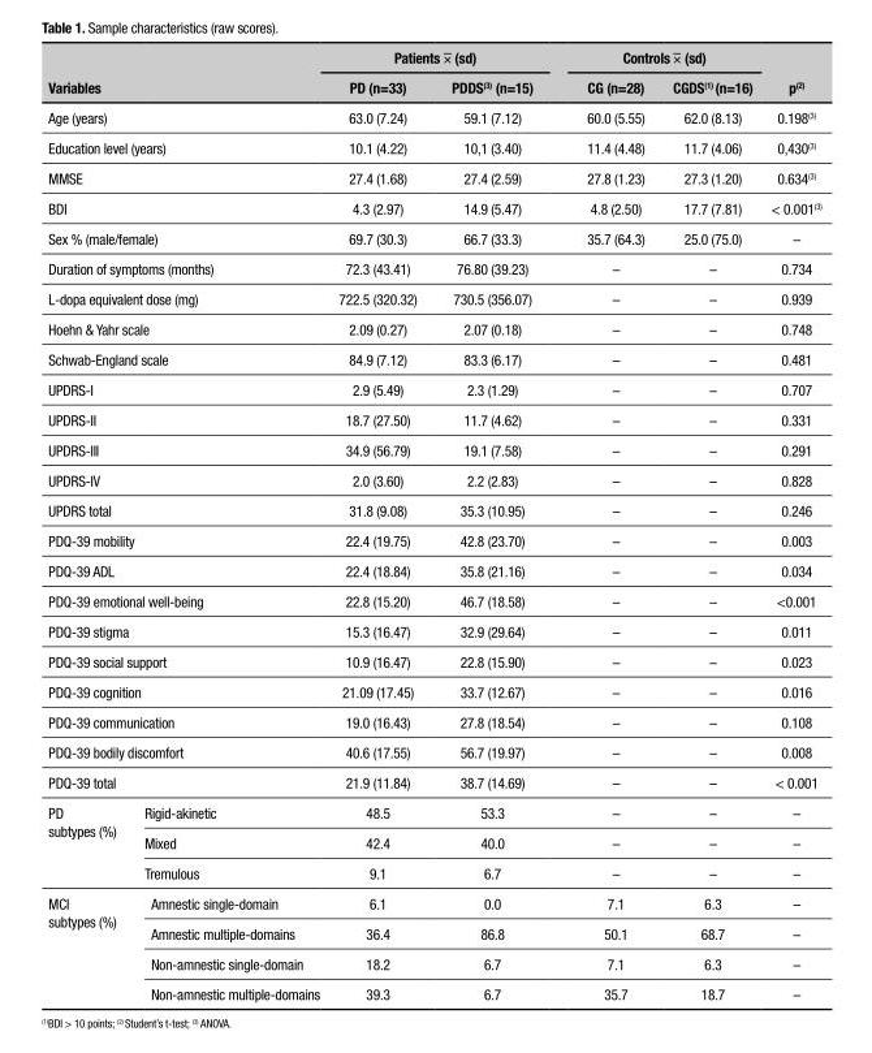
<table><thead><tr><td rowspan="2" colspan="2">Variables</td><td colspan="2">Patients × (sd)</td><td colspan="2">Controls × (sd)</td><td rowspan="2">p<sup>(2)</sup></td></tr><tr><td>PD (n=33)</td><td>PDDS<sup>(3)</sup> (n=15)</td><td>CG (n=28)</td><td>CGDS<sup>(1)</sup> (n=16)</td></tr></thead><tbody><tr><td colspan="2">Age (years)</td><td>63.0 (7.24)</td><td>59.1 (7.12)</td><td>60.0 (5.55)</td><td>62.0 (8.13)</td><td>0.198<sup>(3)</sup></td></tr><tr><td colspan="2">Education level (years)</td><td>10.1 (4.22)</td><td>10,1 (3.40)</td><td>11.4 (4.48)</td><td>11.7 (4.06)</td><td>0,430<sup>(3)</sup></td></tr><tr><td colspan="2">MMSE</td><td>27.4 (1.68)</td><td>27.4 (2.59)</td><td>27.8 (1.23)</td><td>27.3 (1.20)</td><td>0.634<sup>(3)</sup></td></tr><tr><td colspan="2">BDI</td><td>4.3 (2.97)</td><td>14.9 (5.47)</td><td>4.8 (2.50)</td><td>17.7 (7.81)</td><td>&lt; 0.001<sup>(3)</sup></td></tr><tr><td colspan="2">Sex % (male/female)</td><td>69.7 (30.3)</td><td>66.7 (33.3)</td><td>35.7 (64.3)</td><td>25.0 (75.0)</td><td>–</td></tr><tr><td colspan="2">Duration of symptoms (months)</td><td>72.3 (43.41)</td><td>76.80 (39.23)</td><td>–</td><td>–</td><td>0.734</td></tr><tr><td colspan="2">L-dopa equivalent dose (mg)</td><td>722.5 (320.32)</td><td>730.5 (356.07)</td><td>–</td><td>–</td><td>0.939</td></tr><tr><td colspan="2">Hoehn &amp; Yahr scale</td><td>2.09 (0.27)</td><td>2.07 (0.18)</td><td>–</td><td>–</td><td>0.748</td></tr><tr><td colspan="2">Schwab-England scale</td><td>84.9 (7.12)</td><td>83.3 (6.17)</td><td>–</td><td>–</td><td>0.481</td></tr><tr><td colspan="2">UPDRS-I</td><td>2.9 (5.49)</td><td>2.3 (1.29)</td><td>–</td><td>–</td><td>0.707</td></tr><tr><td colspan="2">UPDRS-II</td><td>18.7 (27.50)</td><td>11.7 (4.62)</td><td>–</td><td>–</td><td>0.331</td></tr><tr><td colspan="2">UPDRS-III</td><td>34.9 (56.79)</td><td>19.1 (7.58)</td><td>–</td><td>–</td><td>0.291</td></tr><tr><td colspan="2">UPDRS-IV</td><td>2.0 (3.60)</td><td>2.2 (2.83)</td><td>–</td><td>–</td><td>0.828</td></tr><tr><td colspan="2">UPDRS total</td><td>31.8 (9.08)</td><td>35.3 (10.95)</td><td>–</td><td>–</td><td>0.246</td></tr><tr><td colspan="2">PDQ-39 mobility</td><td>22.4 (19.75)</td><td>42.8 (23.70)</td><td>–</td><td>–</td><td>0.003</td></tr><tr><td colspan="2">PDQ-39 ADL</td><td>22.4 (18.84)</td><td>35.8 (21.16)</td><td>–</td><td>–</td><td>0.034</td></tr><tr><td colspan="2">PDQ-39 emotional well-being</td><td>22.8 (15.20)</td><td>46.7 (18.58)</td><td>–</td><td>–</td><td>&lt;0.001</td></tr><tr><td colspan="2">PDQ-39 stigma</td><td>15.3 (16.47)</td><td>32.9 (29.64)</td><td>–</td><td>–</td><td>0.011</td></tr><tr><td colspan="2">PDQ-39 social support</td><td>10.9 (16.47)</td><td>22.8 (15.90)</td><td>–</td><td>–</td><td>0.023</td></tr><tr><td colspan="2">PDQ-39 cognition</td><td>21.09 (17.45)</td><td>33.7 (12.67)</td><td>–</td><td>–</td><td>0.016</td></tr><tr><td colspan="2">PDQ-39 communication</td><td>19.0 (16.43)</td><td>27.8 (18.54)</td><td>–</td><td>–</td><td>0.108</td></tr><tr><td colspan="2">PDQ-39 bodily discomfort</td><td>40.6 (17.55)</td><td>56.7 (19.97)</td><td>–</td><td>–</td><td>0.008</td></tr><tr><td colspan="2">PDQ-39 total</td><td>21.9 (11.84)</td><td>38.7 (14.69)</td><td>–</td><td>–</td><td>&lt; 0.001</td></tr><tr><td rowspan="3">PD subtypes (%)</td><td>Rigid-akinetic</td><td>48.5</td><td>53.3</td><td>–</td><td>–</td><td>–</td></tr><tr><td>Mixed</td><td>42.4</td><td>40.0</td><td>–</td><td>–</td><td>–</td></tr><tr><td>Tremulous</td><td>9.1</td><td>6.7</td><td>–</td><td>–</td><td>–</td></tr><tr><td rowspan="4">MCI subtypes (%)</td><td>Amnestic single-domain</td><td>6.1</td><td>0.0</td><td>7.1</td><td>6.3</td><td>–</td></tr><tr><td>Amnestic multiple-domains</td><td>36.4</td><td>86.8</td><td>50.1</td><td>68.7</td><td>–</td></tr><tr><td>Non-amnestic single-domain</td><td>18.2</td><td>6.7</td><td>7.1</td><td>6.3</td><td>–</td></tr><tr><td>Non-amnestic multiple-domains</td><td>39.3</td><td>6.7</td><td>35.7</td><td>18.7</td><td>–</td></tr></tbody></table>